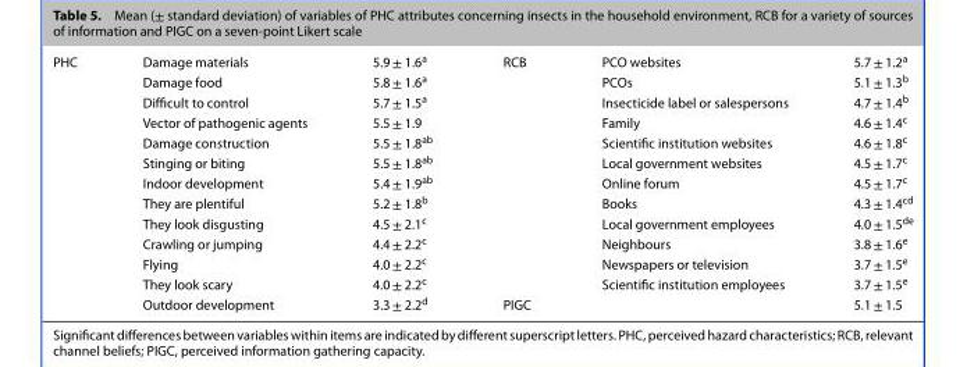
<table><tbody><tr><td rowspan="13">PHC</td><td>Damage materials</td><td>5.9 ± 1.6<sup>a</sup></td><td>RCB</td><td>PCO websites</td><td>5.7 ± 1.2<sup>a</sup></td></tr><tr><td>Damage food</td><td>5.8 ± 1.6<sup>a</sup></td><td></td><td>PCOs</td><td>5.1 ± 1.3<sup>b</sup></td></tr><tr><td>Difficult to control</td><td>5.7 ± 1.5<sup>a</sup></td><td></td><td>Insecticide label or salespersons</td><td>4.7 ± 1.4<sup>b</sup></td></tr><tr><td>Vector of pathogenic agents</td><td>5.5 ± 1.9</td><td></td><td>Family</td><td>4.6 ± 1.4<sup>c</sup></td></tr><tr><td>Damage construction</td><td>5.5 ± 1.8<sup>ab</sup></td><td></td><td>Scientific institution websites</td><td>4.6 ± 1.8<sup>c</sup></td></tr><tr><td>Stinging or biting</td><td>5.5 ± 1.8<sup>ab</sup></td><td></td><td>Local government websites</td><td>4.5 ± 1.7<sup>c</sup></td></tr><tr><td>Indoor development</td><td>5.4 ± 1.9<sup>ab</sup></td><td></td><td>Online forum</td><td>4.5 ± 1.7<sup>c</sup></td></tr><tr><td>They are plentiful</td><td>5.2 ± 1.8<sup>b</sup></td><td></td><td>Books</td><td>4.3 ± 1.4<sup>cd</sup></td></tr><tr><td>They look disgusting</td><td>4.5 ± 2.1<sup>c</sup></td><td></td><td>Local government employees</td><td>4.0 ± 1.5<sup>de</sup></td></tr><tr><td>Crawling or jumping</td><td>4.4 ± 2.2<sup>c</sup></td><td></td><td>Neighbours</td><td>3.8 ± 1.6<sup>e</sup></td></tr><tr><td>Flying</td><td>4.0 ± 2.2<sup>c</sup></td><td></td><td>Newspapers or television</td><td>3.7 ± 1.5<sup>e</sup></td></tr><tr><td>They look scary</td><td>4.0 ± 2.2<sup>c</sup></td><td></td><td>Scientific institution employees</td><td>3.7 ± 1.5<sup>e</sup></td></tr><tr><td>Outdoor development</td><td>3.3 ± 2.2<sup>d</sup></td><td>PIGC</td><td></td><td>5.1 ± 1.5</td></tr></tbody></table>